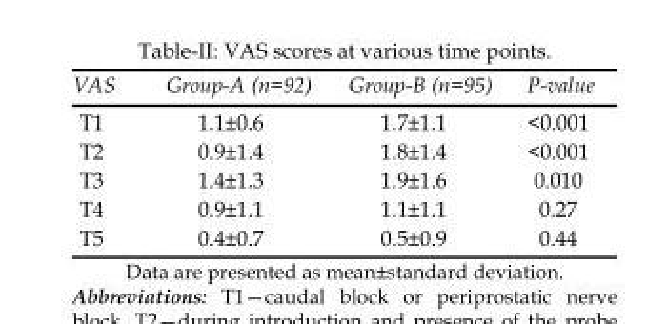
<table><thead><tr><td>VAS</td><td>Group-A (n=92)</td><td>Group-B (n=95)</td><td>P-value</td></tr></thead><tbody><tr><td>T1</td><td>1.1±0.6</td><td>1.7±1.1</td><td>&lt;0.001</td></tr><tr><td>T2</td><td>0.9±1.4</td><td>1.8±1.4</td><td>&lt;0.001</td></tr><tr><td>T3</td><td>1.4±1.3</td><td>1.9±1.6</td><td>0.010</td></tr><tr><td>T4</td><td>0.9±1.1</td><td>1.1±1.1</td><td>0.27</td></tr><tr><td>T5</td><td>0.4±0.7</td><td>0.5±0.9</td><td>0.44</td></tr></tbody></table>